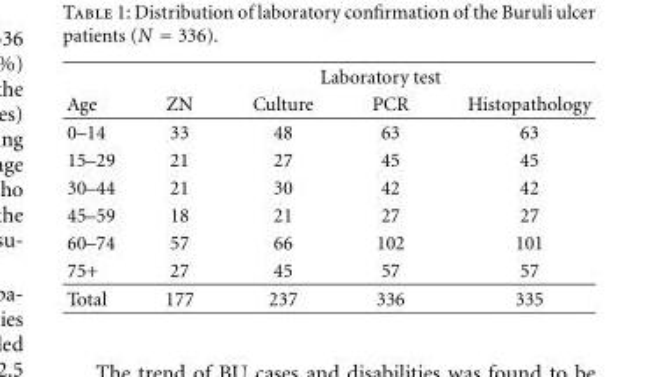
<table><thead><tr><td rowspan="2">Age</td><td colspan="4">Laboratory test</td></tr><tr><td>ZN</td><td>Culture</td><td>PCR</td><td>Histopathology</td></tr></thead><tbody><tr><td>0–14</td><td>33</td><td>48</td><td>63</td><td>63</td></tr><tr><td>15–29</td><td>21</td><td>27</td><td>45</td><td>45</td></tr><tr><td>30–44</td><td>21</td><td>30</td><td>42</td><td>42</td></tr><tr><td>45–59</td><td>18</td><td>21</td><td>27</td><td>27</td></tr><tr><td>60–74</td><td>57</td><td>66</td><td>102</td><td>101</td></tr><tr><td>75+</td><td>27</td><td>45</td><td>57</td><td>57</td></tr><tr><td>Total</td><td>177</td><td>237</td><td>336</td><td>335</td></tr></tbody></table>